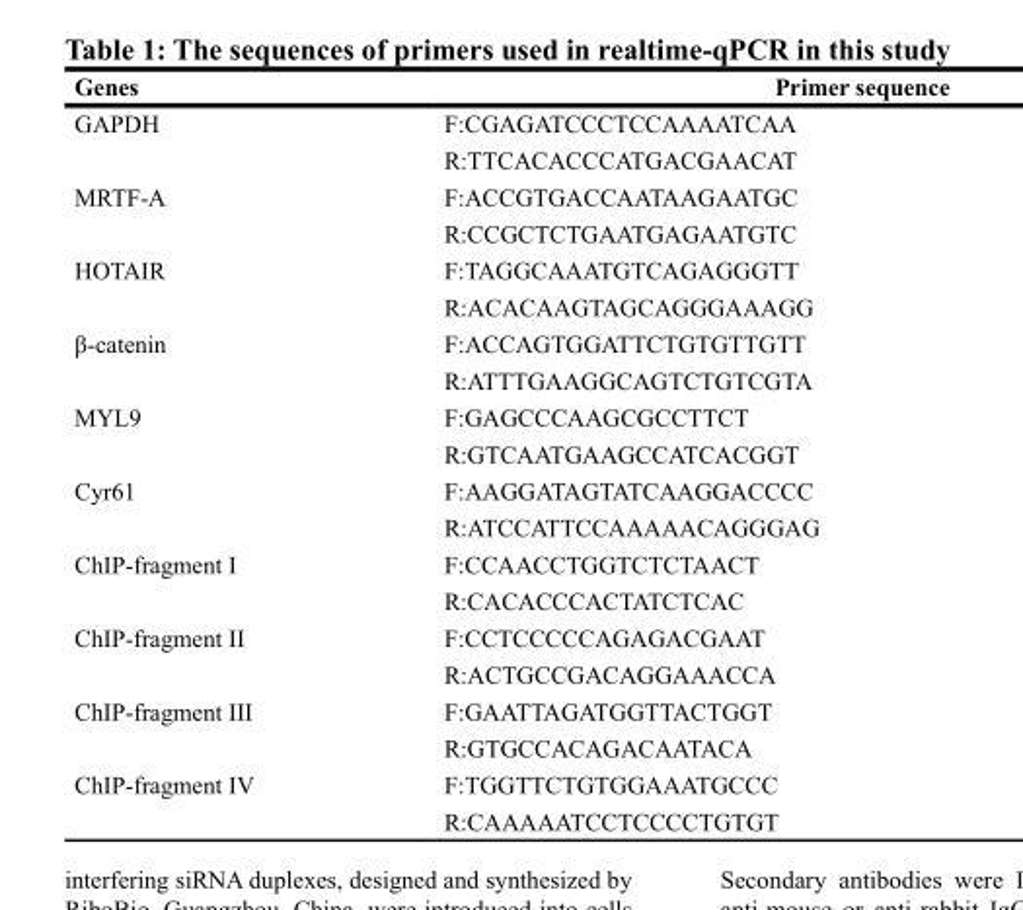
<table><thead><tr><td>Genes</td><td>Primer sequence</td></tr></thead><tbody><tr><td rowspan="2">GAPDH</td><td>F:CGAGATCCCTCCAAAATCAA</td></tr><tr><td>R:TTCACACCCATGACGAACAT</td></tr><tr><td rowspan="2">MRTF-A</td><td>F:ACCGTGACCAATAAGAATGC</td></tr><tr><td>R:CCGCTCTGAATGAGAATGTC</td></tr><tr><td rowspan="2">HOTAIR</td><td>F:TAGGCAAATGTCAGAGGGTT</td></tr><tr><td>R:ACACAAGTAGCAGGGAAAGG</td></tr><tr><td rowspan="2">β-catenin</td><td>F:ACCAGTGGATTCTGTGTTGTT</td></tr><tr><td>R:ATTTGAAGGCAGTCTGTCGTA</td></tr><tr><td rowspan="2">MYL9</td><td>F:GAGCCCAAGCGCCTTCT</td></tr><tr><td>R:GTCAATGAAGCCATCACGGT</td></tr><tr><td rowspan="2">Cyr61</td><td>F:AAGGATAGTATCAAGGACCCC</td></tr><tr><td>R:ATCCATTCCAAAAACAGGGAG</td></tr><tr><td rowspan="2">ChIP-fragment I</td><td>F:CCAACCTGGTCTCTAACT</td></tr><tr><td>R:CACACCCACTATCTCAC</td></tr><tr><td rowspan="2">ChIP-fragment II</td><td>F:CCTCCCCCAGAGACGAAT</td></tr><tr><td>R:ACTGCCGACAGGAAACCA</td></tr><tr><td rowspan="2">ChIP-fragment III</td><td>F:GAATTAGATGGTTACTGGT</td></tr><tr><td>R:GTGCCACAGACAATACA</td></tr><tr><td rowspan="2">ChIP-fragment IV</td><td>F:TGGTTCTGTGGAAATGCCC</td></tr><tr><td>R:CAAAAATCCTCCCCTGTGT</td></tr></tbody></table>